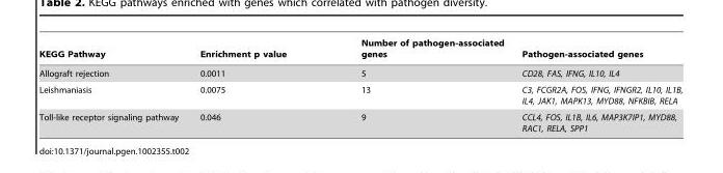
<table><thead><tr><td>KEGG Pathway</td><td>Enrichment p value</td><td>Number of pathogen-associated genes</td><td>Pathogen-associated genes</td></tr></thead><tbody><tr><td>Allograft rejection</td><td>0.0011</td><td>5</td><td>CD28, FAS, IFNG, IL10, IL4</td></tr><tr><td>Leishmaniasis</td><td>0.0075</td><td>13</td><td>C3, FCGR2A, FOS, IFNG, IFNGR2, IL10, IL1B, IL4, JAK1, MAPK13, MYD88, NFKBIB, RELA</td></tr><tr><td>Toll-like receptor signaling pathway</td><td>0.046</td><td>9</td><td>CCL4, FOS, IL1B, IL6, MAP3K7IP1, MYD88, RAC1, RELA, SPP1</td></tr></tbody></table>